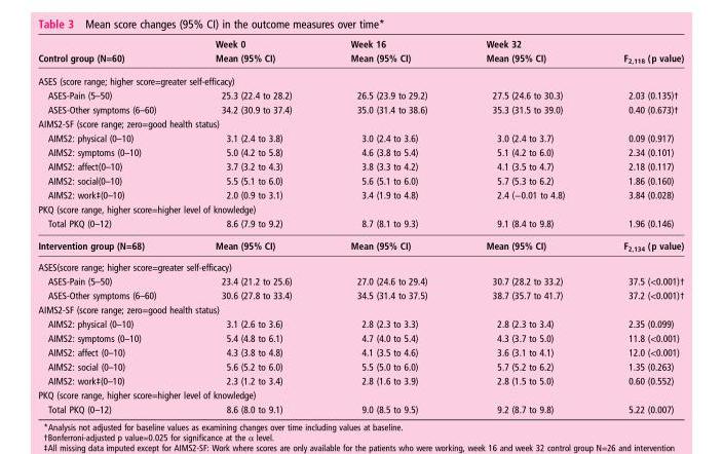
<table><thead><tr><td rowspan="2">Control group (N=60)</td><td rowspan="2">Week 0 Mean (95% CI)</td><td rowspan="2">Week 16 Mean (95% CI)</td><td rowspan="2">Week 32 Mean (95% CI)</td><td rowspan="2">F<sub>2,118</sub> (p value)</td></tr><tr></tr></thead><tbody><tr><td colspan="5">ASES (score range; higher score=greater self-efficacy)</td></tr><tr><td>ASES-Pain (5–50)</td><td>25.3 (22.4 to 28.2)</td><td>26.5 (23.9 to 29.2)</td><td>27.5 (24.6 to 30.3)</td><td>2.03 (0.135)†</td></tr><tr><td>ASES-Other symptoms (6–60)</td><td>34.2 (30.9 to 37.4)</td><td>35.0 (31.4 to 38.6)</td><td>35.3 (31.5 to 39.0)</td><td>0.40 (0.673)†</td></tr><tr><td colspan="5">AIMS2-SF (score range; zero=good health status)</td></tr><tr><td>AIMS2: physical (0–10)</td><td>3.1 (2.4 to 3.8)</td><td>3.0 (2.4 to 3.6)</td><td>3.0 (2.4 to 3.7)</td><td>0.09 (0.917)</td></tr><tr><td>AIMS2: symptoms (0–10)</td><td>5.0 (4.2 to 5.8)</td><td>4.6 (3.8 to 5.4)</td><td>5.1 (4.2 to 6.0)</td><td>2.34 (0.101)</td></tr><tr><td>AIMS2: affect(0–10)</td><td>3.7 (3.2 to 4.3)</td><td>3.8 (3.3 to 4.2)</td><td>4.1 (3.5 to 4.7)</td><td>2.18 (0.117)</td></tr><tr><td>AIMS2: social(0–10)</td><td>5.5 (5.1 to 6.0)</td><td>5.6 (5.1 to 6.0)</td><td>5.7 (5.3 to 6.2)</td><td>1.86 (0.160)</td></tr><tr><td>AIMS2: work‡(0–10)</td><td>2.0 (0.9 to 3.1)</td><td>3.4 (1.9 to 4.8)</td><td>2.4 (−0.01 to 4.8)</td><td>3.84 (0.028)</td></tr><tr><td colspan="5">PKQ (score range, higher score=higher level of knowledge)</td></tr><tr><td>Total PKQ (0–12)</td><td>8.6 (7.9 to 9.2)</td><td>8.7 (8.1 to 9.3)</td><td>9.1 (8.4 to 9.8)</td><td>1.96 (0.146)</td></tr><tr><td>Intervention group (N=68)</td><td>Mean (95% CI)</td><td>Mean (95% CI)</td><td>Mean (95% CI)</td><td>F2,134 (p value)</td></tr><tr><td colspan="5">ASES(score range; higher score=greater self-efficacy)</td></tr><tr><td>ASES-Pain (5–50)</td><td>23.4 (21.2 to 25.6)</td><td>27.0 (24.6 to 29.4)</td><td>30.7 (28.2 to 33.2)</td><td>37.5 (&lt;0.001)†</td></tr><tr><td>ASES-Other symptoms (6–60)</td><td>30.6 (27.8 to 33.4)</td><td>34.5 (31.4 to 37.5)</td><td>38.7 (35.7 to 41.7)</td><td>37.2 (&lt;0.001)†</td></tr><tr><td colspan="5">AIMS2-SF (score range; zero=good health status)</td></tr><tr><td>AIMS2: physical (0–10)</td><td>3.1 (2.6 to 3.6)</td><td>2.8 (2.3 to 3.3)</td><td>2.8 (2.3 to 3.4)</td><td>2.35 (0.099)</td></tr><tr><td>AIMS2: symptoms (0–10)</td><td>5.4 (4.8 to 6.1)</td><td>4.7 (4.0 to 5.4)</td><td>4.3 (3.7 to 5.0)</td><td>11.8 (&lt;0.001)</td></tr><tr><td>AIMS2: affect (0–10)</td><td>4.3 (3.8 to 4.8)</td><td>4.1 (3.5 to 4.6)</td><td>3.6 (3.1 to 4.1)</td><td>12.0 (&lt;0.001)</td></tr><tr><td>AIMS2: social (0–10)</td><td>5.6 (5.2 to 6.0)</td><td>5.5 (5.0 to 6.0)</td><td>5.7 (5.2 to 6.2)</td><td>1.35 (0.263)</td></tr><tr><td>AIMS2: work‡(0–10)</td><td>2.3 (1.2 to 3.4)</td><td>2.8 (1.6 to 3.9)</td><td>2.8 (1.5 to 5.0)</td><td>0.60 (0.552)</td></tr><tr><td colspan="5">PKQ (score range, higher score=higher level of knowledge)</td></tr><tr><td>Total PKQ (0–12)</td><td>8.6 (8.0 to 9.1)</td><td>9.0 (8.5 to 9.5)</td><td>9.2 (8.7 to 9.8)</td><td>5.22 (0.007)</td></tr></tbody></table>